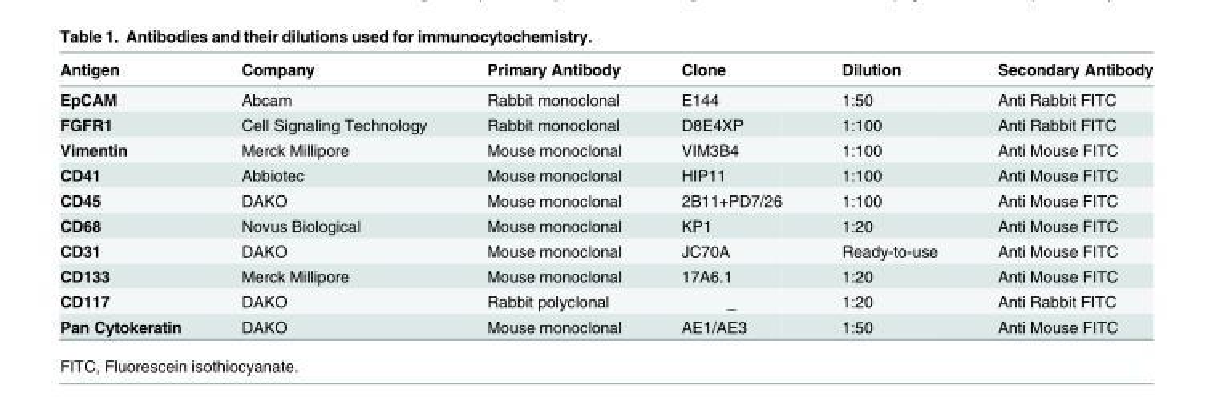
<table><thead><tr><td>Antigen</td><td>Company</td><td>Primary Antibody</td><td>Clone</td><td>Dilution</td><td>Secondary Antibody</td></tr></thead><tbody><tr><td>EpCAM</td><td>Abcam</td><td>Rabbit monoclonal</td><td>E144</td><td>1:50</td><td>Anti Rabbit FITC</td></tr><tr><td>FGFR1</td><td>Cell Signaling Technology</td><td>Rabbit monoclonal</td><td>D8E4XP</td><td>1:100</td><td>Anti Rabbit FITC</td></tr><tr><td>Vimentin</td><td>Merck Millipore</td><td>Mouse monoclonal</td><td>VIM3B4</td><td>1:100</td><td>Anti Mouse FITC</td></tr><tr><td>CD41</td><td>Abbiotec</td><td>Mouse monoclonal</td><td>HIP11</td><td>1:100</td><td>Anti Mouse FITC</td></tr><tr><td>CD45</td><td>DAKO</td><td>Mouse monoclonal</td><td>2B11+PD7/26</td><td>1:100</td><td>Anti Mouse FITC</td></tr><tr><td>CD68</td><td>Novus Biological</td><td>Mouse monoclonal</td><td>KP1</td><td>1:20</td><td>Anti Mouse FITC</td></tr><tr><td>CD31</td><td>DAKO</td><td>Mouse monoclonal</td><td>JC70A</td><td>Ready-to-use</td><td>Anti Mouse FITC</td></tr><tr><td>CD133</td><td>Merck Millipore</td><td>Mouse monoclonal</td><td>17A6.1</td><td>1:20</td><td>Anti Mouse FITC</td></tr><tr><td>CD117</td><td>DAKO</td><td>Rabbit polyclonal</td><td>_</td><td>1:20</td><td>Anti Rabbit FITC</td></tr><tr><td>Pan Cytokeratin</td><td>DAKO</td><td>Mouse monoclonal</td><td>AE1/AE3</td><td>1:50</td><td>Anti Mouse FITC</td></tr></tbody></table>